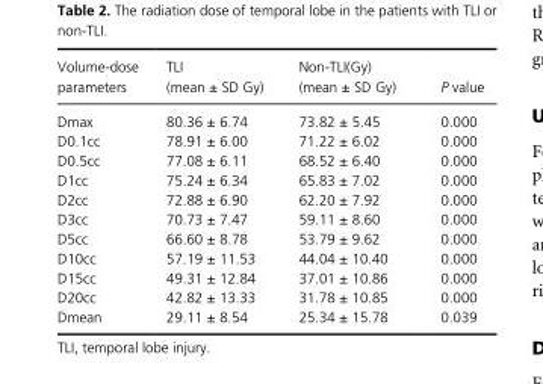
<table><thead><tr><td>Volume- dose parameters</td><td>TLI (mean ± SD Gy)</td><td>Non- TLI(Gy) (mean ± SD Gy)</td><td>P value</td></tr></thead><tbody><tr><td>Dmax</td><td>80.36 ± 6.74</td><td>73.82 ± 5.45</td><td>0.000</td></tr><tr><td>D0.1cc</td><td>78.91 ± 6.00</td><td>71.22 ± 6.02</td><td>0.000</td></tr><tr><td>D0.5cc</td><td>77.08 ± 6.11</td><td>68.52 ± 6.40</td><td>0.000</td></tr><tr><td>D1cc</td><td>75.24 ± 6.34</td><td>65.83 ± 7.02</td><td>0.000</td></tr><tr><td>D2cc</td><td>72.88 ± 6.90</td><td>62.20 ± 7.92</td><td>0.000</td></tr><tr><td>D3cc</td><td>70.73 ± 7.47</td><td>59.11 ± 8.60</td><td>0.000</td></tr><tr><td>D5cc</td><td>66.60 ± 8.78</td><td>53.79 ± 9.62</td><td>0.000</td></tr><tr><td>D10cc</td><td>57.19 ± 11.53</td><td>44.04 ± 10.40</td><td>0.000</td></tr><tr><td>D15cc</td><td>49.31 ± 12.84</td><td>37.01 ± 10.86</td><td>0.000</td></tr><tr><td>D20cc</td><td>42.82 ± 13.33</td><td>31.78 ± 10.85</td><td>0.000</td></tr><tr><td>Dmean</td><td>29.11 ± 8.54</td><td>25.34 ± 15.78</td><td>0.039</td></tr></tbody></table>